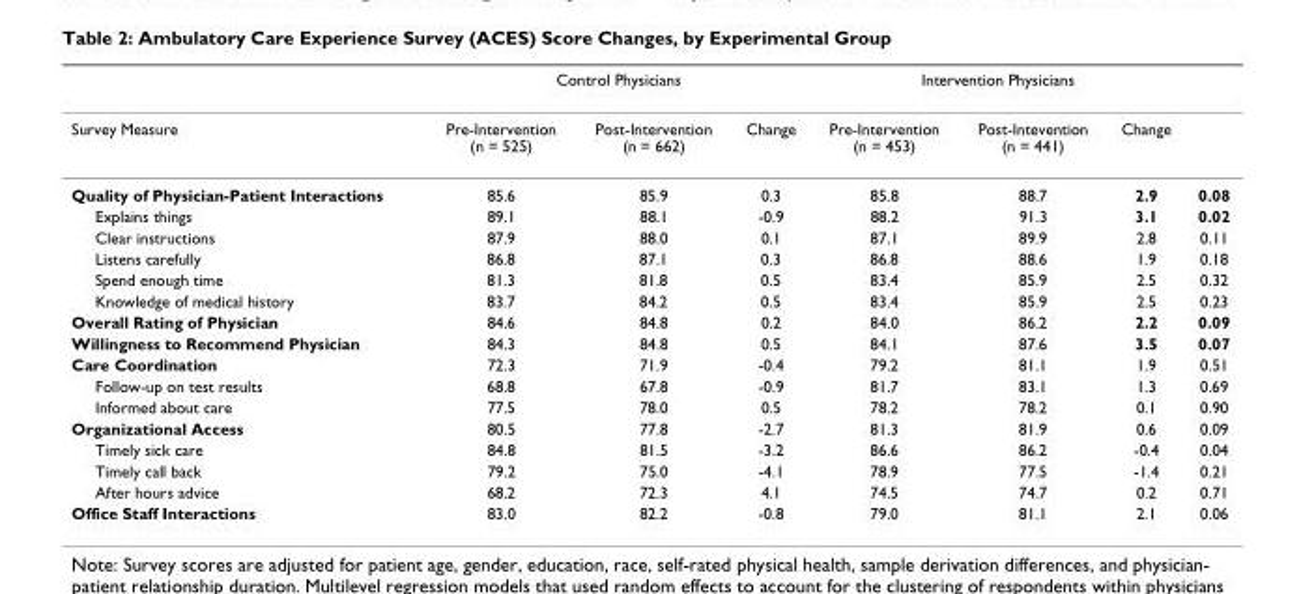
<table><thead><tr><td rowspan="2">Survey Measure</td><td colspan="3">Control Physicians</td><td colspan="3">Intervention Physicians</td><td rowspan="2"></td></tr><tr><td>Pre-Intervention (n = 525)</td><td>Post-Intervention (n = 662)</td><td>Change</td><td>Pre-Intervention (n = 453)</td><td>Post-Intevention (n = 441)</td><td>Change</td></tr></thead><tbody><tr><td>Quality of Physician-Patient Interactions</td><td>85.6</td><td>85.9</td><td>0.3</td><td>85.8</td><td>88.7</td><td>2.9</td><td>0.08</td></tr><tr><td>Explains things</td><td>89.1</td><td>88.1</td><td>-0.9</td><td>88.2</td><td>91.3</td><td>3.1</td><td>0.02</td></tr><tr><td>Clear instructions</td><td>87.9</td><td>88.0</td><td>0.1</td><td>87.1</td><td>89.9</td><td>2.8</td><td>0.11</td></tr><tr><td>Listens carefully</td><td>86.8</td><td>87.1</td><td>0.3</td><td>86.8</td><td>88.6</td><td>1.9</td><td>0.18</td></tr><tr><td>Spend enough time</td><td>81.3</td><td>81.8</td><td>0.5</td><td>83.4</td><td>85.9</td><td>2.5</td><td>0.32</td></tr><tr><td>Knowledge of medical history</td><td>83.7</td><td>84.2</td><td>0.5</td><td>83.4</td><td>85.9</td><td>2.5</td><td>0.23</td></tr><tr><td>Overall Rating of Physician</td><td>84.6</td><td>84.8</td><td>0.2</td><td>84.0</td><td>86.2</td><td>2.2</td><td>0.09</td></tr><tr><td>Willingness to Recommend Physician</td><td>84.3</td><td>84.8</td><td>0.5</td><td>84.1</td><td>87.6</td><td>3.5</td><td>0.07</td></tr><tr><td>Care Coordination</td><td>72.3</td><td>71.9</td><td>-0.4</td><td>79.2</td><td>81.1</td><td>1.9</td><td>0.51</td></tr><tr><td>Follow-up on test results</td><td>68.8</td><td>67.8</td><td>-0.9</td><td>81.7</td><td>83.1</td><td>1.3</td><td>0.69</td></tr><tr><td>Informed about care</td><td>77.5</td><td>78.0</td><td>0.5</td><td>78.2</td><td>78.2</td><td>0.1</td><td>0.90</td></tr><tr><td>Organizational Access</td><td>80.5</td><td>77.8</td><td>-2.7</td><td>81.3</td><td>81.9</td><td>0.6</td><td>0.09</td></tr><tr><td>Timely sick care</td><td>84.8</td><td>81.5</td><td>-3.2</td><td>86.6</td><td>86.2</td><td>-0.4</td><td>0.04</td></tr><tr><td>Timely call back</td><td>79.2</td><td>75.0</td><td>-4.1</td><td>78.9</td><td>77.5</td><td>-1.4</td><td>0.21</td></tr><tr><td>After hours advice</td><td>68.2</td><td>72.3</td><td>4.1</td><td>74.5</td><td>74.7</td><td>0.2</td><td>0.71</td></tr><tr><td>Office Staff Interactions</td><td>83.0</td><td>82.2</td><td>-0.8</td><td>79.0</td><td>81.1</td><td>2.1</td><td>0.06</td></tr></tbody></table>